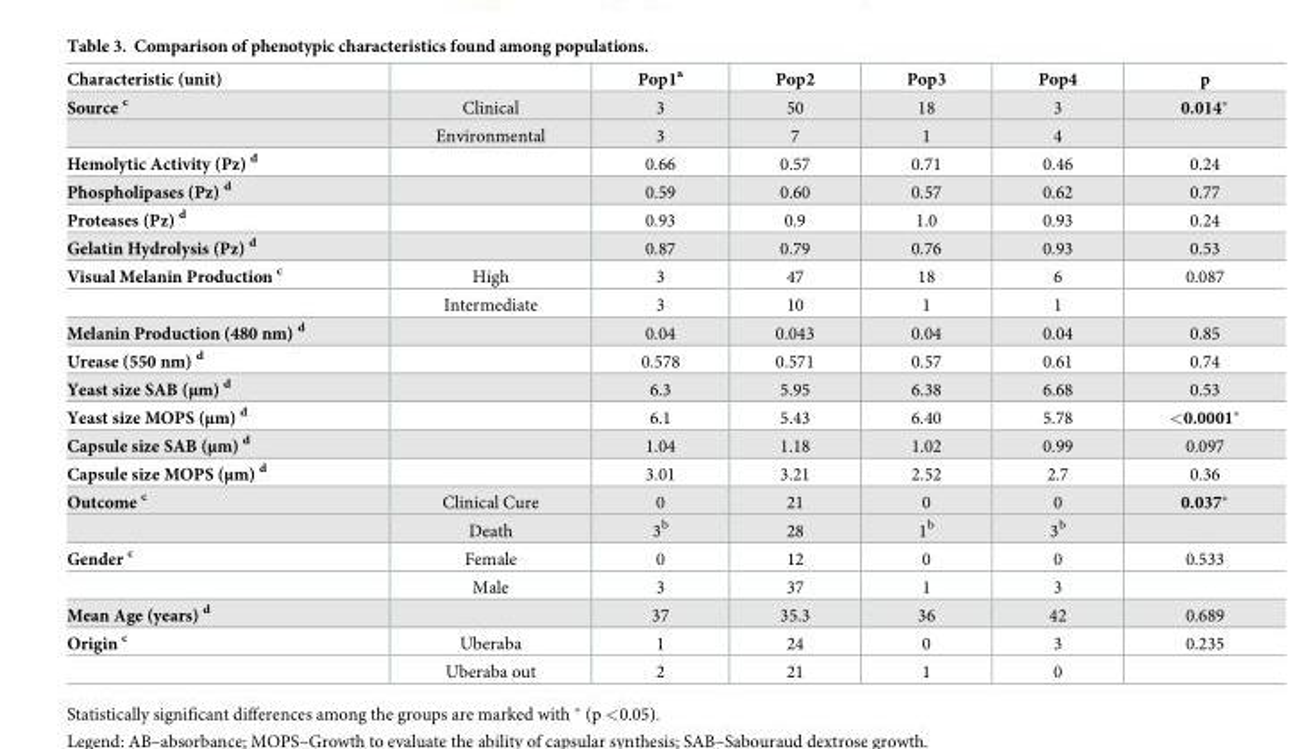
<table><thead><tr><td>Characteristic (unit)</td><td></td><td>Pop1<sup>a</sup></td><td>Pop2</td><td>Pop3</td><td>Pop4</td><td>p</td></tr></thead><tbody><tr><td rowspan="2">Source <sup>c</sup></td><td>Clinical</td><td>3</td><td>50</td><td>18</td><td>3</td><td>0.014*</td></tr><tr><td>Environmental</td><td>3</td><td>7</td><td>1</td><td>4</td><td></td></tr><tr><td>Hemolytic Activity (Pz) <sup>d</sup></td><td></td><td>0.66</td><td>0.57</td><td>0.71</td><td>0.46</td><td>0.24</td></tr><tr><td>Phospholipases (Pz) <sup>d</sup></td><td></td><td>0.59</td><td>0.60</td><td>0.57</td><td>0.62</td><td>0.77</td></tr><tr><td>Proteases (Pz) <sup>d</sup></td><td></td><td>0.93</td><td>0.9</td><td>1.0</td><td>0.93</td><td>0.24</td></tr><tr><td>Gelatin Hydrolysis (Pz) <sup>d</sup></td><td></td><td>0.87</td><td>0.79</td><td>0.76</td><td>0.93</td><td>0.53</td></tr><tr><td rowspan="2">Visual Melanin Production <sup>c</sup></td><td>High</td><td>3</td><td>47</td><td>18</td><td>6</td><td>0.087</td></tr><tr><td>Intermediate</td><td>3</td><td>10</td><td>1</td><td>1</td><td></td></tr><tr><td>Melanin Production (480 nm) <sup>d</sup></td><td></td><td>0.04</td><td>0.043</td><td>0.04</td><td>0.04</td><td>0.85</td></tr><tr><td>Urease (550 nm) <sup>d</sup></td><td></td><td>0.578</td><td>0.571</td><td>0.57</td><td>0.61</td><td>0.74</td></tr><tr><td>Yeast size SAB (μm) <sup>d</sup></td><td></td><td>6.3</td><td>5.95</td><td>6.38</td><td>6.68</td><td>0.53</td></tr><tr><td>Yeast size MOPS (μm) <sup>d</sup></td><td></td><td>6.1</td><td>5.43</td><td>6.40</td><td>5.78</td><td>&lt;0.0001*</td></tr><tr><td>Capsule size SAB (μm) <sup>d</sup></td><td></td><td>1.04</td><td>1.18</td><td>1.02</td><td>0.99</td><td>0.097</td></tr><tr><td>Capsule size MOPS (μm) <sup>d</sup></td><td></td><td>3.01</td><td>3.21</td><td>2.52</td><td>2.7</td><td>0.36</td></tr><tr><td rowspan="2">Outcome <sup>c</sup></td><td>Clinical Cure</td><td>0</td><td>21</td><td>0</td><td>0</td><td>0.037*</td></tr><tr><td>Death</td><td>3<sup>b</sup></td><td>28</td><td>1<sup>b</sup></td><td>3<sup>b</sup></td><td></td></tr><tr><td rowspan="2">Gender <sup>c</sup></td><td>Female</td><td>0</td><td>12</td><td>0</td><td>0</td><td>0.533</td></tr><tr><td>Male</td><td>3</td><td>37</td><td>1</td><td>3</td><td></td></tr><tr><td>Mean Age (years) <sup>d</sup></td><td></td><td>37</td><td>35.3</td><td>36</td><td>42</td><td>0.689</td></tr><tr><td rowspan="2">Origin <sup>c</sup></td><td>Uberaba</td><td>1</td><td>24</td><td>0</td><td>3</td><td>0.235</td></tr><tr><td>Uberaba out</td><td>2</td><td>21</td><td>1</td><td>0</td><td></td></tr></tbody></table>